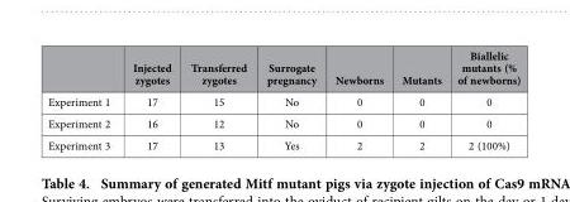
<table><thead><tr><td></td><td>Injected zygotes</td><td>Transferred zygotes</td><td>Surrogate pregnancy</td><td>Newborns</td><td>Mutants</td><td>Biallelic mutants (% of newborns)</td></tr></thead><tbody><tr><td>Experiment 1</td><td>17</td><td>15</td><td>No</td><td>0</td><td>0</td><td>0</td></tr><tr><td>Experiment 2</td><td>16</td><td>12</td><td>No</td><td>0</td><td>0</td><td>0</td></tr><tr><td>Experiment 3</td><td>17</td><td>13</td><td>Yes</td><td>2</td><td>2</td><td>2 (100%)</td></tr></tbody></table>